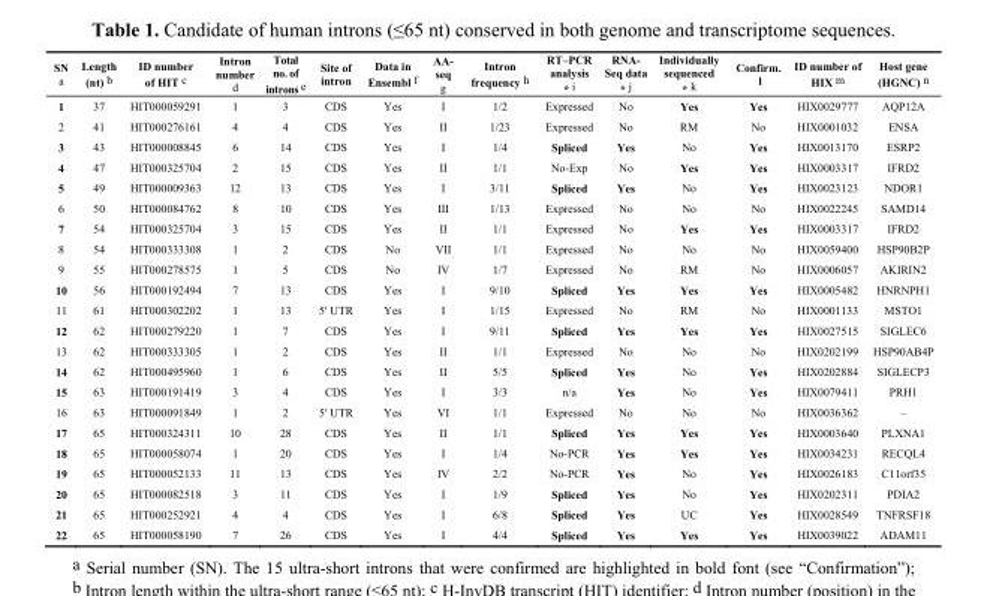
<table><thead><tr><td>SN a</td><td>Length (nt) <sup>b</sup></td><td>ID number of HIT <sup>c</sup></td><td>Intron number d</td><td>Total no. of introns <sup>e</sup></td><td>Site of intron</td><td>Data in Ensembl <sup>f</sup></td><td>AA- seq g</td><td>Intron frequency <sup>h</sup></td><td>RT–PCR analysis * i</td><td>RNA- Seq data * j</td><td>Individually sequenced * k</td><td>Confirm. l</td><td>ID number of HIX <sup>m</sup></td><td>Host gene (HGNC) <sup>n</sup></td></tr></thead><tbody><tr><td>1</td><td>37</td><td>HIT000059291</td><td>1</td><td>3</td><td>CDS</td><td>Yes</td><td>I</td><td>1/2</td><td>Expressed</td><td>No</td><td>Yes</td><td>Yes</td><td>HIX0029777</td><td>AQP12A</td></tr><tr><td>2</td><td>41</td><td>HIT000276161</td><td>4</td><td>4</td><td>CDS</td><td>Yes</td><td>II</td><td>1/23</td><td>Expressed</td><td>No</td><td>RM</td><td>No</td><td>HIX0001032</td><td>ENSA</td></tr><tr><td>3</td><td>43</td><td>HIT000008845</td><td>6</td><td>14</td><td>CDS</td><td>Yes</td><td>I</td><td>1/4</td><td>Spliced</td><td>Yes</td><td>No</td><td>Yes</td><td>HIX0013170</td><td>ESRP2</td></tr><tr><td>4</td><td>47</td><td>HIT000325704</td><td>2</td><td>15</td><td>CDS</td><td>Yes</td><td>II</td><td>1/1</td><td>No-Exp</td><td>No</td><td>Yes</td><td>Yes</td><td>HIX0003317</td><td>IFRD2</td></tr><tr><td>5</td><td>49</td><td>HIT000009363</td><td>12</td><td>13</td><td>CDS</td><td>Yes</td><td>I</td><td>3/11</td><td>Spliced</td><td>Yes</td><td>No</td><td>Yes</td><td>HIX0023123</td><td>NDOR1</td></tr><tr><td>6</td><td>50</td><td>HIT000084762</td><td>8</td><td>10</td><td>CDS</td><td>Yes</td><td>III</td><td>1/13</td><td>Expressed</td><td>No</td><td>No</td><td>No</td><td>HIX0022245</td><td>SAMD14</td></tr><tr><td>7</td><td>54</td><td>HIT000325704</td><td>3</td><td>15</td><td>CDS</td><td>Yes</td><td>II</td><td>1/1</td><td>Expressed</td><td>No</td><td>Yes</td><td>Yes</td><td>HIX0003317</td><td>IFRD2</td></tr><tr><td>8</td><td>54</td><td>HIT000333308</td><td>1</td><td>2</td><td>CDS</td><td>No</td><td>VII</td><td>1/1</td><td>Expressed</td><td>No</td><td>No</td><td>No</td><td>HIX0059400</td><td>HSP90B2P</td></tr><tr><td>9</td><td>55</td><td>HIT000278575</td><td>1</td><td>5</td><td>CDS</td><td>No</td><td>IV</td><td>1/7</td><td>Expressed</td><td>No</td><td>RM</td><td>No</td><td>HIX0006057</td><td>AKIRIN2</td></tr><tr><td>10</td><td>56</td><td>HIT000192494</td><td>7</td><td>13</td><td>CDS</td><td>Yes</td><td>I</td><td>9/10</td><td>Spliced</td><td>Yes</td><td>Yes</td><td>Yes</td><td>HIX0005482</td><td>HNRNPH1</td></tr><tr><td>11</td><td>61</td><td>HIT000302202</td><td>1</td><td>13</td><td>5′ UTR</td><td>Yes</td><td>I</td><td>1/15</td><td>Expressed</td><td>No</td><td>RM</td><td>No</td><td>HIX0001133</td><td>MSTO1</td></tr><tr><td>12</td><td>62</td><td>HIT000279220</td><td>1</td><td>7</td><td>CDS</td><td>Yes</td><td>I</td><td>9/11</td><td>Spliced</td><td>Yes</td><td>Yes</td><td>Yes</td><td>HIX0027515</td><td>SIGLEC6</td></tr><tr><td>13</td><td>62</td><td>HIT000333305</td><td>1</td><td>2</td><td>CDS</td><td>Yes</td><td>II</td><td>1/1</td><td>Expressed</td><td>No</td><td>No</td><td>No</td><td>HIX0202199</td><td>HSP90AB4P</td></tr><tr><td>14</td><td>62</td><td>HIT000495960</td><td>1</td><td>6</td><td>CDS</td><td>Yes</td><td>II</td><td>5/5</td><td>Spliced</td><td>Yes</td><td>No</td><td>Yes</td><td>HIX0202884</td><td>SIGLECP3</td></tr><tr><td>15</td><td>63</td><td>HIT000191419</td><td>3</td><td>4</td><td>CDS</td><td>Yes</td><td>I</td><td>3/3</td><td>n/a</td><td>Yes</td><td>No</td><td>Yes</td><td>HIX0079411</td><td>PRH1</td></tr><tr><td>16</td><td>63</td><td>HIT000091849</td><td>1</td><td>2</td><td>5′ UTR</td><td>Yes</td><td>VI</td><td>1/1</td><td>Expressed</td><td>No</td><td>No</td><td>No</td><td>HIX0036362</td><td>–</td></tr><tr><td>17</td><td>65</td><td>HIT000324311</td><td>10</td><td>28</td><td>CDS</td><td>Yes</td><td>II</td><td>1/1</td><td>Spliced</td><td>Yes</td><td>Yes</td><td>Yes</td><td>HIX0003640</td><td>PLXNA1</td></tr><tr><td>18</td><td>65</td><td>HIT000058074</td><td>1</td><td>20</td><td>CDS</td><td>Yes</td><td>I</td><td>1/4</td><td>No-PCR</td><td>Yes</td><td>Yes</td><td>Yes</td><td>HIX0034231</td><td>RECQL4</td></tr><tr><td>19</td><td>65</td><td>HIT000052133</td><td>11</td><td>13</td><td>CDS</td><td>Yes</td><td>IV</td><td>2/2</td><td>No-PCR</td><td>Yes</td><td>No</td><td>Yes</td><td>HIX0026183</td><td>C11orf35</td></tr><tr><td>20</td><td>65</td><td>HIT000082518</td><td>3</td><td>11</td><td>CDS</td><td>Yes</td><td>I</td><td>1/9</td><td>Spliced</td><td>Yes</td><td>No</td><td>Yes</td><td>HIX0202311</td><td>PDIA2</td></tr><tr><td>21</td><td>65</td><td>HIT000252921</td><td>4</td><td>4</td><td>CDS</td><td>Yes</td><td>I</td><td>6/8</td><td>Spliced</td><td>Yes</td><td>UC</td><td>Yes</td><td>HIX0028549</td><td>TNFRSF18</td></tr><tr><td>22</td><td>65</td><td>HIT000058190</td><td>7</td><td>26</td><td>CDS</td><td>Yes</td><td>I</td><td>4/4</td><td>Spliced</td><td>Yes</td><td>Yes</td><td>Yes</td><td>HIX0039022</td><td>ADAM11</td></tr></tbody></table>